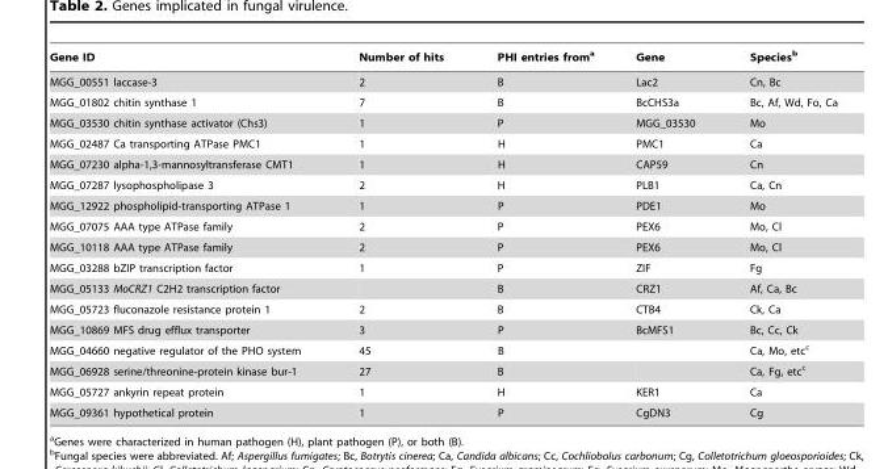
<table><thead><tr><td>Gene ID</td><td>Number of hits</td><td>PHI entries from<sup>a</sup></td><td>Gene</td><td>Species<sup>b</sup></td></tr></thead><tbody><tr><td>MGG_00551 laccase-3</td><td>2</td><td>B</td><td>Lac2</td><td>Cn, Bc</td></tr><tr><td>MGG_01802 chitin synthase 1</td><td>7</td><td>B</td><td>BcCHS3a</td><td>Bc, Af, Wd, Fo, Ca</td></tr><tr><td>MGG_03530 chitin synthase activator (Chs3)</td><td>1</td><td>P</td><td>MGG_03530</td><td>Mo</td></tr><tr><td>MGG_02487 Ca transporting ATPase PMC1</td><td>1</td><td>H</td><td>PMC1</td><td>Ca</td></tr><tr><td>MGG_07230 alpha-1,3-mannosyltransferase CMT1</td><td>1</td><td>H</td><td>CAP59</td><td>Cn</td></tr><tr><td>MGG_07287 lysophospholipase 3</td><td>2</td><td>H</td><td>PLB1</td><td>Ca, Cn</td></tr><tr><td>MGG_12922 phospholipid-transporting ATPase 1</td><td>1</td><td>P</td><td>PDE1</td><td>Mo</td></tr><tr><td>MGG_07075 AAA type ATPase family</td><td>2</td><td>P</td><td>PEX6</td><td>Mo, Cl</td></tr><tr><td>MGG_10118 AAA type ATPase family</td><td>2</td><td>P</td><td>PEX6</td><td>Mo, Cl</td></tr><tr><td>MGG_03288 bZIP transcription factor</td><td>1</td><td>P</td><td>ZIF</td><td>Fg</td></tr><tr><td>MGG_05133 MoCRZ1 C2H2 transcription factor</td><td></td><td>B</td><td>CRZ1</td><td>Af, Ca, Bc</td></tr><tr><td>MGG_05723 fluconazole resistance protein 1</td><td>2</td><td>B</td><td>CTB4</td><td>Ck, Ca</td></tr><tr><td>MGG_10869 MFS drug efflux transporter</td><td>3</td><td>P</td><td>BcMFS1</td><td>Bc, Cc, Ck</td></tr><tr><td>MGG_04660 negative regulator of the PHO system</td><td>45</td><td>B</td><td></td><td>Ca, Mo, etc<sup>c</sup></td></tr><tr><td>MGG_06928 serine/threonine-protein kinase bur-1</td><td>27</td><td>B</td><td></td><td>Ca, Fg, etc<sup>c</sup></td></tr><tr><td>MGG_05727 ankyrin repeat protein</td><td>1</td><td>H</td><td>KER1</td><td>Ca</td></tr><tr><td>MGG_09361 hypothetical protein</td><td>1</td><td>P</td><td>CgDN3</td><td>Cg</td></tr></tbody></table>